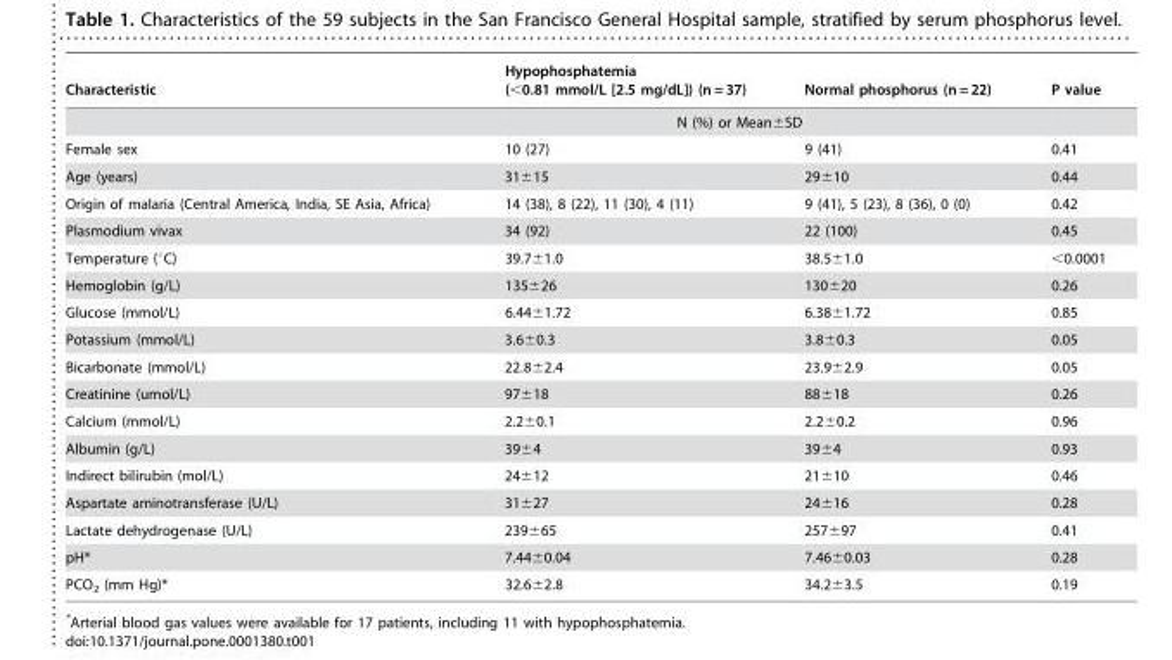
<table><thead><tr><td>Characteristic</td><td>Hypophosphatemia (&lt;0.81 mmol/L [2.5 mg/dL]) (n = 37)</td><td>Normal phosphorus (n = 22)</td><td>P value</td></tr></thead><tbody><tr><td></td><td>N (%) or Mean±SD</td><td></td><td></td></tr><tr><td>Female sex</td><td>10 (27)</td><td>9 (41)</td><td>0.41</td></tr><tr><td>Age (years)</td><td>31±15</td><td>29±10</td><td>0.44</td></tr><tr><td>Origin of malaria (Central America, India, SE Asia, Africa)</td><td>14 (38), 8 (22), 11 (30), 4 (11)</td><td>9 (41), 5 (23), 8 (36), 0 (0)</td><td>0.42</td></tr><tr><td>Plasmodium vivax</td><td>34 (92)</td><td>22 (100)</td><td>0.45</td></tr><tr><td>Temperature (°C)</td><td>39.7±1.0</td><td>38.5±1.0</td><td>&lt;0.0001</td></tr><tr><td>Hemoglobin (g/L)</td><td>135±26</td><td>130±20</td><td>0.26</td></tr><tr><td>Glucose (mmol/L)</td><td>6.44±1.72</td><td>6.38±1.72</td><td>0.85</td></tr><tr><td>Potassium (mmol/L)</td><td>3.6±0.3</td><td>3.8±0.3</td><td>0.05</td></tr><tr><td>Bicarbonate (mmol/L)</td><td>22.8±2.4</td><td>23.9±2.9</td><td>0.05</td></tr><tr><td>Creatinine (umol/L)</td><td>97±18</td><td>88±18</td><td>0.26</td></tr><tr><td>Calcium (mmol/L)</td><td>2.2±0.1</td><td>2.2±0.2</td><td>0.96</td></tr><tr><td>Albumin (g/L)</td><td>39±4</td><td>39±4</td><td>0.93</td></tr><tr><td>Indirect bilirubin (mol/L)</td><td>24±12</td><td>21±10</td><td>0.46</td></tr><tr><td>Aspartate aminotransferase (U/L)</td><td>31±27</td><td>24±16</td><td>0.28</td></tr><tr><td>Lactate dehydrogenase (U/L)</td><td>239±65</td><td>257±97</td><td>0.41</td></tr><tr><td>pH*</td><td>7.44±0.04</td><td>7.46±0.03</td><td>0.28</td></tr><tr><td>PCO<sub>2</sub> (mm Hg)*</td><td>32.6±2.8</td><td>34.2±3.5</td><td>0.19</td></tr></tbody></table>